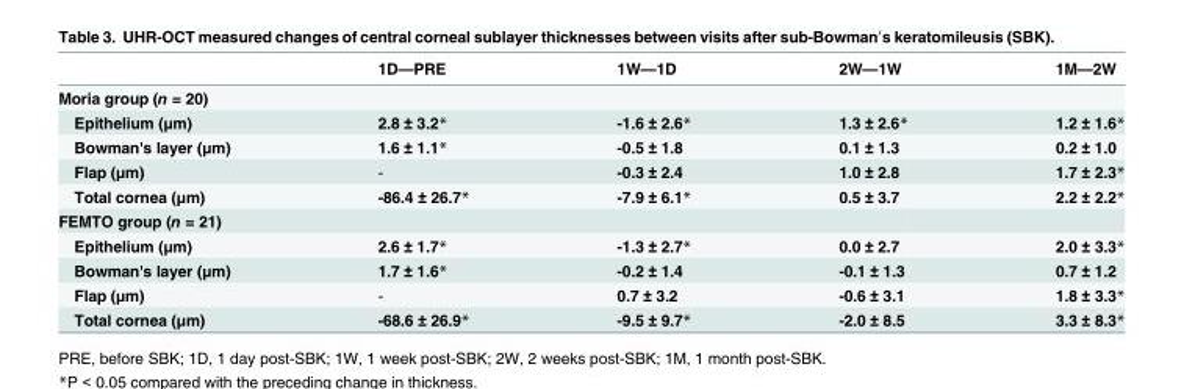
<table><thead><tr><td></td><td>1D—PRE</td><td>1W—1D</td><td>2W—1W</td><td>1M—2W</td></tr></thead><tbody><tr><td colspan="5">Moria group (n = 20)</td></tr><tr><td>Epithelium (μm)</td><td>2.8 ± 3.2*</td><td>-1.6 ± 2.6*</td><td>1.3 ± 2.6*</td><td>1.2 ± 1.6*</td></tr><tr><td>Bowman&#x27;s layer (μm)</td><td>1.6 ± 1.1*</td><td>-0.5 ± 1.8</td><td>0.1 ± 1.3</td><td>0.2 ± 1.0</td></tr><tr><td>Flap (μm)</td><td>-</td><td>-0.3 ± 2.4</td><td>1.0 ± 2.8</td><td>1.7 ± 2.3*</td></tr><tr><td>Total cornea (μm)</td><td>-86.4 ± 26.7*</td><td>-7.9 ± 6.1*</td><td>0.5 ± 3.7</td><td>2.2 ± 2.2*</td></tr><tr><td colspan="5">FEMTO group (n = 21)</td></tr><tr><td>Epithelium (μm)</td><td>2.6 ± 1.7*</td><td>-1.3 ± 2.7*</td><td>0.0 ± 2.7</td><td>2.0 ± 3.3*</td></tr><tr><td>Bowman&#x27;s layer (μm)</td><td>1.7 ± 1.6*</td><td>-0.2 ± 1.4</td><td>-0.1 ± 1.3</td><td>0.7 ± 1.2</td></tr><tr><td>Flap (μm)</td><td>-</td><td>0.7 ± 3.2</td><td>-0.6 ± 3.1</td><td>1.8 ± 3.3*</td></tr><tr><td>Total cornea (μm)</td><td>-68.6 ± 26.9*</td><td>-9.5 ± 9.7*</td><td>-2.0 ± 8.5</td><td>3.3 ± 8.3*</td></tr></tbody></table>